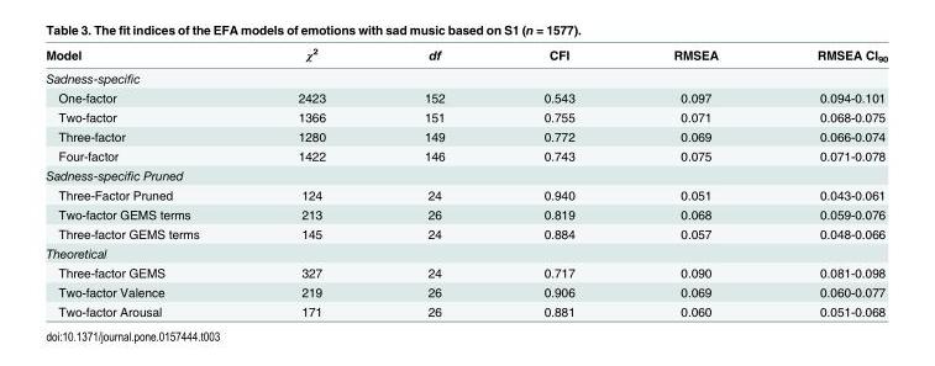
<table><thead><tr><td>Model</td><td>χ<sup>2</sup></td><td>df</td><td>CFI</td><td>RMSEA</td><td>RMSEA CI<sub>90</sub></td></tr></thead><tbody><tr><td colspan="6">Sadness-specific</td></tr><tr><td>One-factor</td><td>2423</td><td>152</td><td>0.543</td><td>0.097</td><td>0.094-0.101</td></tr><tr><td>Two-factor</td><td>1366</td><td>151</td><td>0.755</td><td>0.071</td><td>0.068-0.075</td></tr><tr><td>Three-factor</td><td>1280</td><td>149</td><td>0.772</td><td>0.069</td><td>0.066-0.074</td></tr><tr><td>Four-factor</td><td>1422</td><td>146</td><td>0.743</td><td>0.075</td><td>0.071-0.078</td></tr><tr><td colspan="6">Sadness-specific Pruned</td></tr><tr><td>Three-Factor Pruned</td><td>124</td><td>24</td><td>0.940</td><td>0.051</td><td>0.043-0.061</td></tr><tr><td>Two-factor GEMS terms</td><td>213</td><td>26</td><td>0.819</td><td>0.068</td><td>0.059-0.076</td></tr><tr><td>Three-factor GEMS terms</td><td>145</td><td>24</td><td>0.884</td><td>0.057</td><td>0.048-0.066</td></tr><tr><td colspan="6">Theoretical</td></tr><tr><td>Three-factor GEMS</td><td>327</td><td>24</td><td>0.717</td><td>0.090</td><td>0.081-0.098</td></tr><tr><td>Two-factor Valence</td><td>219</td><td>26</td><td>0.906</td><td>0.069</td><td>0.060-0.077</td></tr><tr><td>Two-factor Arousal</td><td>171</td><td>26</td><td>0.881</td><td>0.060</td><td>0.051-0.068</td></tr></tbody></table>